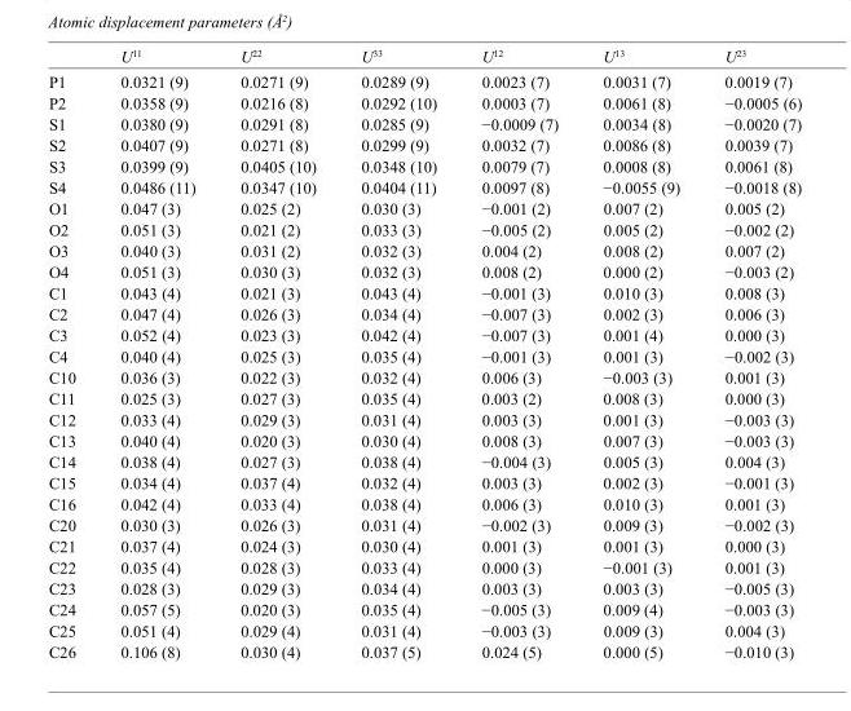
<table><thead><tr><td></td><td>U<sup>11</sup></td><td>U<sup>22</sup></td><td>U<sup>33</sup></td><td>U<sup>12</sup></td><td>U<sup>13</sup></td><td>U<sup>23</sup></td></tr></thead><tbody><tr><td>P1</td><td>0.0321 (9)</td><td>0.0271 (9)</td><td>0.0289 (9)</td><td>0.0023 (7)</td><td>0.0031 (7)</td><td>0.0019 (7)</td></tr><tr><td>P2</td><td>0.0358 (9)</td><td>0.0216 (8)</td><td>0.0292 (10)</td><td>0.0003 (7)</td><td>0.0061 (8)</td><td>−0.0005 (6)</td></tr><tr><td>S1</td><td>0.0380 (9)</td><td>0.0291 (8)</td><td>0.0285 (9)</td><td>−0.0009 (7)</td><td>0.0034 (8)</td><td>−0.0020 (7)</td></tr><tr><td>S2</td><td>0.0407 (9)</td><td>0.0271 (8)</td><td>0.0299 (9)</td><td>0.0032 (7)</td><td>0.0086 (8)</td><td>0.0039 (7)</td></tr><tr><td>S3</td><td>0.0399 (9)</td><td>0.0405 (10)</td><td>0.0348 (10)</td><td>0.0079 (7)</td><td>0.0008 (8)</td><td>0.0061 (8)</td></tr><tr><td>S4</td><td>0.0486 (11)</td><td>0.0347 (10)</td><td>0.0404 (11)</td><td>0.0097 (8)</td><td>−0.0055 (9)</td><td>−0.0018 (8)</td></tr><tr><td>O1</td><td>0.047 (3)</td><td>0.025 (2)</td><td>0.030 (3)</td><td>−0.001 (2)</td><td>0.007 (2)</td><td>0.005 (2)</td></tr><tr><td>O2</td><td>0.051 (3)</td><td>0.021 (2)</td><td>0.033 (3)</td><td>−0.005 (2)</td><td>0.005 (2)</td><td>−0.002 (2)</td></tr><tr><td>O3</td><td>0.040 (3)</td><td>0.031 (2)</td><td>0.032 (3)</td><td>0.004 (2)</td><td>0.008 (2)</td><td>0.007 (2)</td></tr><tr><td>O4</td><td>0.051 (3)</td><td>0.030 (3)</td><td>0.032 (3)</td><td>0.008 (2)</td><td>0.000 (2)</td><td>−0.003 (2)</td></tr><tr><td>C1</td><td>0.043 (4)</td><td>0.021 (3)</td><td>0.043 (4)</td><td>−0.001 (3)</td><td>0.010 (3)</td><td>0.008 (3)</td></tr><tr><td>C2</td><td>0.047 (4)</td><td>0.026 (3)</td><td>0.034 (4)</td><td>−0.007 (3)</td><td>0.002 (3)</td><td>0.006 (3)</td></tr><tr><td>C3</td><td>0.052 (4)</td><td>0.023 (3)</td><td>0.042 (4)</td><td>−0.007 (3)</td><td>0.001 (4)</td><td>0.000 (3)</td></tr><tr><td>C4</td><td>0.040 (4)</td><td>0.025 (3)</td><td>0.035 (4)</td><td>−0.001 (3)</td><td>0.001 (3)</td><td>−0.002 (3)</td></tr><tr><td>C10</td><td>0.036 (3)</td><td>0.022 (3)</td><td>0.032 (4)</td><td>0.006 (3)</td><td>−0.003 (3)</td><td>0.001 (3)</td></tr><tr><td>C11</td><td>0.025 (3)</td><td>0.027 (3)</td><td>0.035 (4)</td><td>0.003 (2)</td><td>0.008 (3)</td><td>0.000 (3)</td></tr><tr><td>C12</td><td>0.033 (4)</td><td>0.029 (3)</td><td>0.031 (4)</td><td>0.003 (3)</td><td>0.001 (3)</td><td>−0.003 (3)</td></tr><tr><td>C13</td><td>0.040 (4)</td><td>0.020 (3)</td><td>0.030 (4)</td><td>0.008 (3)</td><td>0.007 (3)</td><td>−0.003 (3)</td></tr><tr><td>C14</td><td>0.038 (4)</td><td>0.027 (3)</td><td>0.038 (4)</td><td>−0.004 (3)</td><td>0.005 (3)</td><td>0.004 (3)</td></tr><tr><td>C15</td><td>0.034 (4)</td><td>0.037 (4)</td><td>0.032 (4)</td><td>0.003 (3)</td><td>0.002 (3)</td><td>−0.001 (3)</td></tr><tr><td>C16</td><td>0.042 (4)</td><td>0.033 (4)</td><td>0.038 (4)</td><td>0.006 (3)</td><td>0.010 (3)</td><td>0.001 (3)</td></tr><tr><td>C20</td><td>0.030 (3)</td><td>0.026 (3)</td><td>0.031 (4)</td><td>−0.002 (3)</td><td>0.009 (3)</td><td>−0.002 (3)</td></tr><tr><td>C21</td><td>0.037 (4)</td><td>0.024 (3)</td><td>0.030 (4)</td><td>0.001 (3)</td><td>0.001 (3)</td><td>0.000 (3)</td></tr><tr><td>C22</td><td>0.035 (4)</td><td>0.028 (3)</td><td>0.033 (4)</td><td>0.000 (3)</td><td>−0.001 (3)</td><td>0.001 (3)</td></tr><tr><td>C23</td><td>0.028 (3)</td><td>0.029 (3)</td><td>0.034 (4)</td><td>0.003 (3)</td><td>0.003 (3)</td><td>−0.005 (3)</td></tr><tr><td>C24</td><td>0.057 (5)</td><td>0.020 (3)</td><td>0.035 (4)</td><td>−0.005 (3)</td><td>0.009 (4)</td><td>−0.003 (3)</td></tr><tr><td>C25</td><td>0.051 (4)</td><td>0.029 (4)</td><td>0.031 (4)</td><td>−0.003 (3)</td><td>0.009 (3)</td><td>0.004 (3)</td></tr><tr><td>C26</td><td>0.106 (8)</td><td>0.030 (4)</td><td>0.037 (5)</td><td>0.024 (5)</td><td>0.000 (5)</td><td>−0.010 (3)</td></tr></tbody></table>